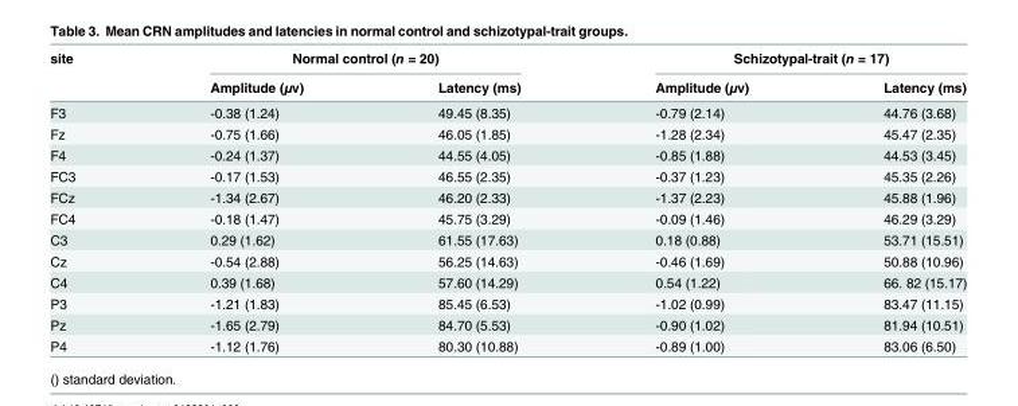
<table><thead><tr><td rowspan="2">site</td><td colspan="2">Normal control (n = 20)</td><td colspan="2">Schizotypal-trait (n = 17)</td></tr><tr><td>Amplitude (μv)</td><td>Latency (ms)</td><td>Amplitude (μv)</td><td>Latency (ms)</td></tr></thead><tbody><tr><td>F3</td><td>-0.38 (1.24)</td><td>49.45 (8.35)</td><td>-0.79 (2.14)</td><td>44.76 (3.68)</td></tr><tr><td>Fz</td><td>-0.75 (1.66)</td><td>46.05 (1.85)</td><td>-1.28 (2.34)</td><td>45.47 (2.35)</td></tr><tr><td>F4</td><td>-0.24 (1.37)</td><td>44.55 (4.05)</td><td>-0.85 (1.88)</td><td>44.53 (3.45)</td></tr><tr><td>FC3</td><td>-0.17 (1.53)</td><td>46.55 (2.35)</td><td>-0.37 (1.23)</td><td>45.35 (2.26)</td></tr><tr><td>FCz</td><td>-1.34 (2.67)</td><td>46.20 (2.33)</td><td>-1.37 (2.23)</td><td>45.88 (1.96)</td></tr><tr><td>FC4</td><td>-0.18 (1.47)</td><td>45.75 (3.29)</td><td>-0.09 (1.46)</td><td>46.29 (3.29)</td></tr><tr><td>C3</td><td>0.29 (1.62)</td><td>61.55 (17.63)</td><td>0.18 (0.88)</td><td>53.71 (15.51)</td></tr><tr><td>Cz</td><td>-0.54 (2.88)</td><td>56.25 (14.63)</td><td>-0.46 (1.69)</td><td>50.88 (10.96)</td></tr><tr><td>C4</td><td>0.39 (1.68)</td><td>57.60 (14.29)</td><td>0.54 (1.22)</td><td>66. 82 (15.17)</td></tr><tr><td>P3</td><td>-1.21 (1.83)</td><td>85.45 (6.53)</td><td>-1.02 (0.99)</td><td>83.47 (11.15)</td></tr><tr><td>Pz</td><td>-1.65 (2.79)</td><td>84.70 (5.53)</td><td>-0.90 (1.02)</td><td>81.94 (10.51)</td></tr><tr><td>P4</td><td>-1.12 (1.76)</td><td>80.30 (10.88)</td><td>-0.89 (1.00)</td><td>83.06 (6.50)</td></tr></tbody></table>